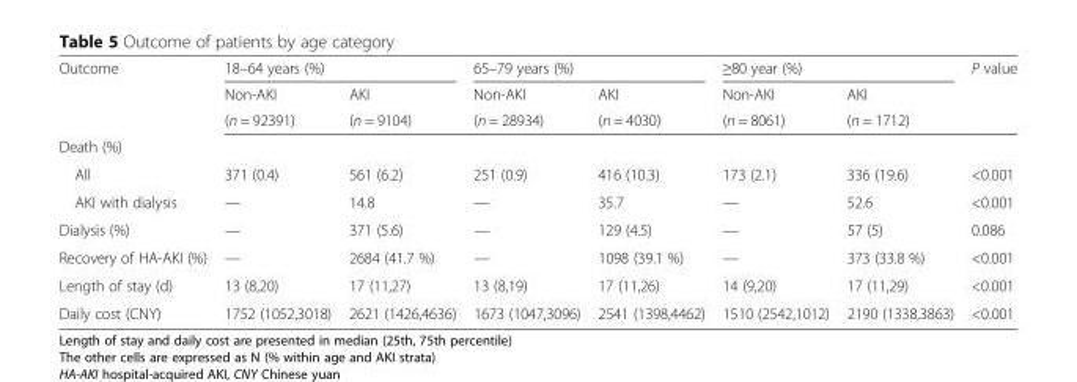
<table><thead><tr><td rowspan="3">Outcome</td><td colspan="2">18–64 years (%)</td><td colspan="2">65–79 years (%)</td><td colspan="2">≥80 year (%)</td><td rowspan="3">P value</td></tr><tr><td rowspan="2">Non-AKI (n = 92391)</td><td rowspan="2">AKI (n = 9104)</td><td rowspan="2">Non-AKI (n = 28934)</td><td rowspan="2">AKI (n = 4030)</td><td rowspan="2">Non-AKI (n = 8061)</td><td rowspan="2">AKI (n = 1712)</td></tr><tr></tr></thead><tbody><tr><td colspan="8">Death (%)</td></tr><tr><td>All</td><td>371 (0.4)</td><td>561 (6.2)</td><td>251 (0.9)</td><td>416 (10.3)</td><td>173 (2.1)</td><td>336 (19.6)</td><td>&lt;0.001</td></tr><tr><td>AKI with dialysis</td><td>—</td><td>14.8</td><td>—</td><td>35.7</td><td>—</td><td>52.6</td><td>&lt;0.001</td></tr><tr><td>Dialysis (%)</td><td>—</td><td>371 (5.6)</td><td>—</td><td>129 (4.5)</td><td>—</td><td>57 (5)</td><td>0.086</td></tr><tr><td>Recovery of HA-AKI (%)</td><td>—</td><td>2684 (41.7 %)</td><td>—</td><td>1098 (39.1 %)</td><td>—</td><td>373 (33.8 %)</td><td>&lt;0.001</td></tr><tr><td>Length of stay (d)</td><td>13 (8,20)</td><td>17 (11,27)</td><td>13 (8,19)</td><td>17 (11,26)</td><td>14 (9,20)</td><td>17 (11,29)</td><td>&lt;0.001</td></tr><tr><td>Daily cost (CNY)</td><td>1752 (1052,3018)</td><td>2621 (1426,4636)</td><td>1673 (1047,3096)</td><td>2541 (1398,4462)</td><td>1510 (2542,1012)</td><td>2190 (1338,3863)</td><td>&lt;0.001</td></tr></tbody></table>